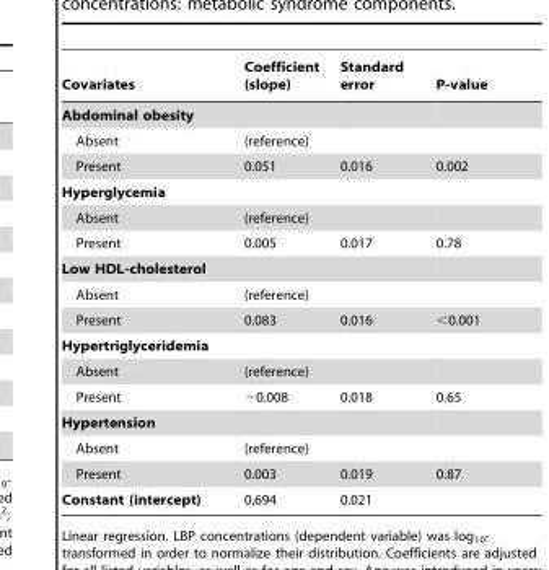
<table><thead><tr><td>Covariates</td><td>Coefficient (slope)</td><td>Standard error</td><td>P-value</td></tr></thead><tbody><tr><td colspan="4">Abdominal obesity</td></tr><tr><td>Absent</td><td>(reference)</td><td></td><td></td></tr><tr><td>Present</td><td>0.051</td><td>0.016</td><td>0.002</td></tr><tr><td colspan="4">Hyperglycemia</td></tr><tr><td>Absent</td><td>(reference)</td><td></td><td></td></tr><tr><td>Present</td><td>0.005</td><td>0.017</td><td>0.78</td></tr><tr><td colspan="4">Low HDL-cholesterol</td></tr><tr><td>Absent</td><td>(reference)</td><td></td><td></td></tr><tr><td>Present</td><td>0.083</td><td>0.016</td><td>&lt;0.001</td></tr><tr><td colspan="4">Hypertriglyceridemia</td></tr><tr><td>Absent</td><td>(reference)</td><td></td><td></td></tr><tr><td>Present</td><td>−0.008</td><td>0.018</td><td>0.65</td></tr><tr><td colspan="4">Hypertension</td></tr><tr><td>Absent</td><td>(reference)</td><td></td><td></td></tr><tr><td>Present</td><td>0.003</td><td>0.019</td><td>0.87</td></tr><tr><td>Constant (intercept)</td><td>0.694</td><td>0.021</td><td></td></tr></tbody></table>